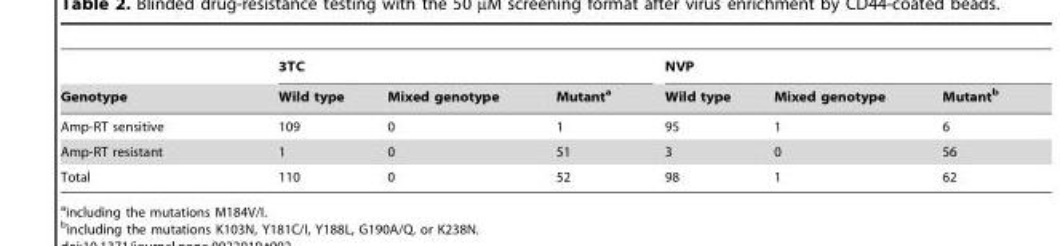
<table><thead><tr><td rowspan="2">Genotype</td><td colspan="3">3TC</td><td colspan="3">NVP</td></tr><tr><td>Wild type</td><td>Mixed genotype</td><td>Mutant<sup>a</sup></td><td>Wild type</td><td>Mixed genotype</td><td>Mutant<sup>b</sup></td></tr></thead><tbody><tr><td>Amp-RT sensitive</td><td>109</td><td>0</td><td>1</td><td>95</td><td>1</td><td>6</td></tr><tr><td>Amp-RT resistant</td><td>1</td><td>0</td><td>51</td><td>3</td><td>0</td><td>56</td></tr><tr><td>Total</td><td>110</td><td>0</td><td>52</td><td>98</td><td>1</td><td>62</td></tr></tbody></table>